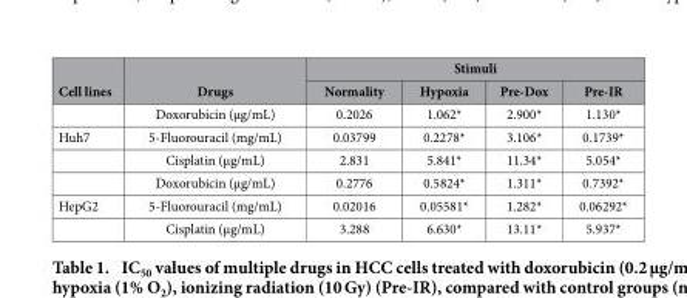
<table><thead><tr><td rowspan="2">Cell lines</td><td rowspan="2">Drugs</td><td colspan="4">Stimuli</td></tr><tr><td>Normality</td><td>Hypoxia</td><td>Pre-Dox</td><td>Pre-IR</td></tr></thead><tbody><tr><td></td><td>Doxorubicin (μg/mL)</td><td>0.2026</td><td>1.062*</td><td>2.900*</td><td>1.130*</td></tr><tr><td rowspan="3">Huh7</td><td>5-Fluorouracil (mg/mL)</td><td>0.03799</td><td>0.2278*</td><td>3.106*</td><td>0.1739*</td></tr><tr><td>Cisplatin (μg/mL)</td><td>2.831</td><td>5.841*</td><td>11.34*</td><td>5.054*</td></tr><tr><td>Doxorubicin (μg/mL)</td><td>0.2776</td><td>0.5824*</td><td>1.311*</td><td>0.7392*</td></tr><tr><td rowspan="2">HepG2</td><td>5-Fluorouracil (mg/mL)</td><td>0.02016</td><td>0.05581*</td><td>1.282*</td><td>0.06292*</td></tr><tr><td>Cisplatin (μg/mL)</td><td>3.288</td><td>6.630*</td><td>13.11*</td><td>5.937*</td></tr></tbody></table>